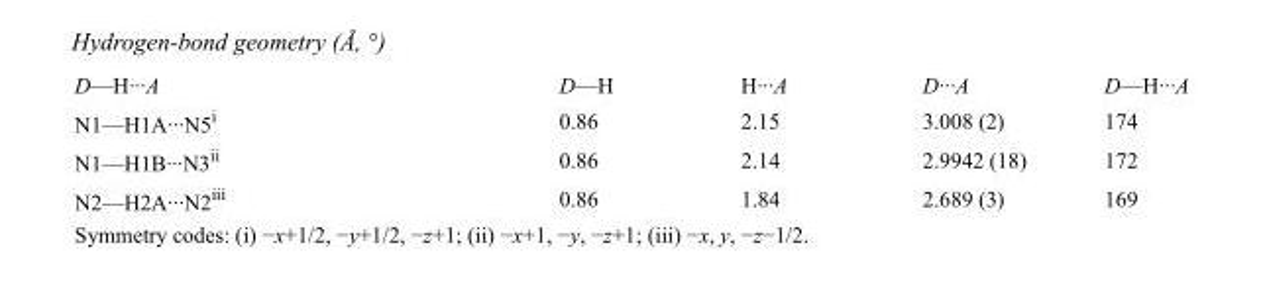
<table><tbody><tr><td>D—H···A</td><td>D—H</td><td>H···A</td><td>D···A</td><td>D—H···A</td></tr><tr><td>N1—H1A···N5<sup>i</sup></td><td>0.86</td><td>2.15</td><td>3.008 (2)</td><td>174</td></tr><tr><td>N1—H1B···N3<sup>ii</sup></td><td>0.86</td><td>2.14</td><td>2.9942 (18)</td><td>172</td></tr><tr><td>N2—H2A···N2<sup>iii</sup></td><td>0.86</td><td>1.84</td><td>2.689 (3)</td><td>169</td></tr></tbody></table>